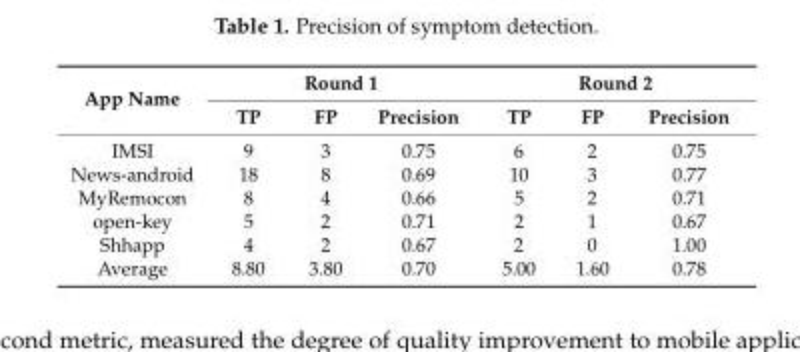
<table><thead><tr><td rowspan="2">App Name</td><td colspan="3">Round 1</td><td colspan="3">Round 2</td></tr><tr><td>TP</td><td>FP</td><td>Precision</td><td>TP</td><td>FP</td><td>Precision</td></tr></thead><tbody><tr><td>IMSI</td><td>9</td><td>3</td><td>0.75</td><td>6</td><td>2</td><td>0.75</td></tr><tr><td>News-android</td><td>18</td><td>8</td><td>0.69</td><td>10</td><td>3</td><td>0.77</td></tr><tr><td>MyRemocon</td><td>8</td><td>4</td><td>0.66</td><td>5</td><td>2</td><td>0.71</td></tr><tr><td>open-key</td><td>5</td><td>2</td><td>0.71</td><td>2</td><td>1</td><td>0.67</td></tr><tr><td>Shhapp</td><td>4</td><td>2</td><td>0.67</td><td>2</td><td>0</td><td>1.00</td></tr><tr><td>Average</td><td>8.80</td><td>3.80</td><td>0.70</td><td>5.00</td><td>1.60</td><td>0.78</td></tr></tbody></table>